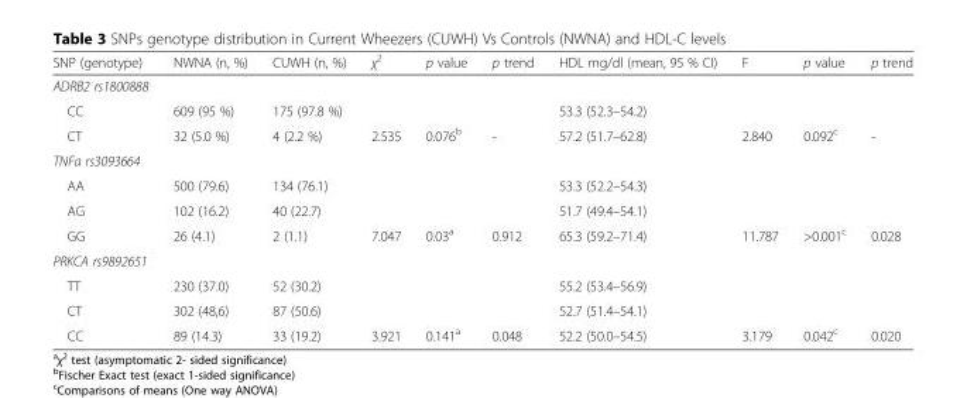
<table><thead><tr><td>SNP (genotype)</td><td>NWNA (n, %)</td><td>CUWH (n, %)</td><td>χ<sup>2</sup></td><td>p value</td><td>p trend</td><td>HDL mg/dl (mean, 95 % CI)</td><td>F</td><td>p value</td><td>p trend</td></tr></thead><tbody><tr><td colspan="10">ADRB2 rs1800888</td></tr><tr><td>CC</td><td>609 (95 %)</td><td>175 (97.8 %)</td><td></td><td></td><td></td><td>53.3 (52.3–54.2)</td><td></td><td></td><td></td></tr><tr><td>CT</td><td>32 (5.0 %)</td><td>4 (2.2 %)</td><td>2.535</td><td>0.076<sup>b</sup></td><td>-</td><td>57.2 (51.7–62.8)</td><td>2.840</td><td>0.092<sup>c</sup></td><td>-</td></tr><tr><td colspan="10">TNFa rs3093664</td></tr><tr><td>AA</td><td>500 (79.6)</td><td>134 (76.1)</td><td></td><td></td><td></td><td>53.3 (52.2–54.3)</td><td></td><td></td><td></td></tr><tr><td>AG</td><td>102 (16.2)</td><td>40 (22.7)</td><td></td><td></td><td></td><td>51.7 (49.4–54.1)</td><td></td><td></td><td></td></tr><tr><td>GG</td><td>26 (4.1)</td><td>2 (1.1)</td><td>7.047</td><td>0.03<sup>a</sup></td><td>0.912</td><td>65.3 (59.2–71.4)</td><td>11.787</td><td>&gt;0.001<sup>c</sup></td><td>0.028</td></tr><tr><td colspan="10">PRKCA rs9892651</td></tr><tr><td>TT</td><td>230 (37.0)</td><td>52 (30.2)</td><td></td><td></td><td></td><td>55.2 (53.4–56.9)</td><td></td><td></td><td></td></tr><tr><td>CT</td><td>302 (48,6)</td><td>87 (50.6)</td><td></td><td></td><td></td><td>52.7 (51.4–54.1)</td><td></td><td></td><td></td></tr><tr><td>CC</td><td>89 (14.3)</td><td>33 (19.2)</td><td>3.921</td><td>0.141<sup>a</sup></td><td>0.048</td><td>52.2 (50.0–54.5)</td><td>3.179</td><td>0.042<sup>c</sup></td><td>0.020</td></tr></tbody></table>